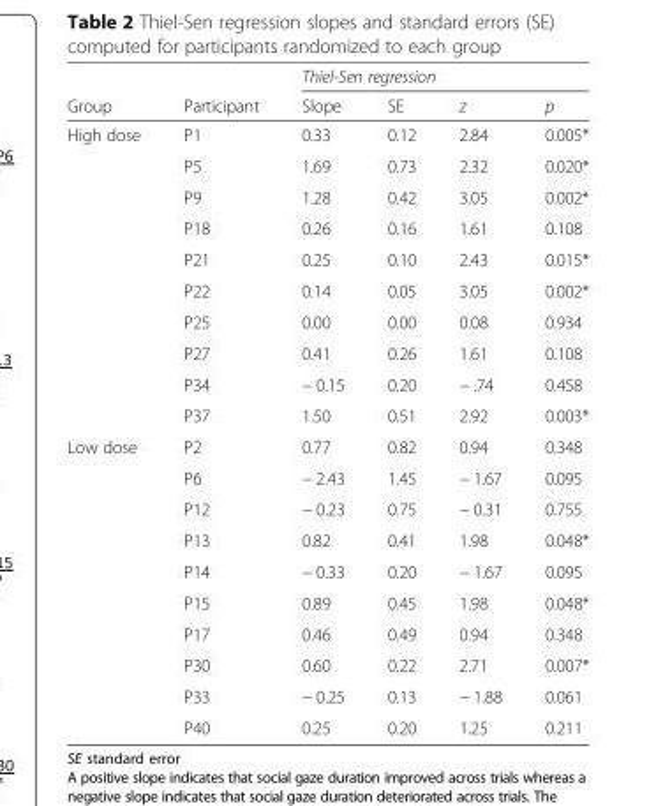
<table><thead><tr><td rowspan="2">Group</td><td rowspan="2">Participant</td><td colspan="4">Thiel-Sen regression</td></tr><tr><td>Slope</td><td>SE</td><td>z</td><td>p</td></tr></thead><tbody><tr><td rowspan="10">High dose</td><td>P1</td><td>0.33</td><td>0.12</td><td>2.84</td><td>0.005*</td></tr><tr><td>P5</td><td>1.69</td><td>0.73</td><td>2.32</td><td>0.020*</td></tr><tr><td>P9</td><td>1.28</td><td>0.42</td><td>3.05</td><td>0.002*</td></tr><tr><td>P18</td><td>0.26</td><td>0.16</td><td>1.61</td><td>0.108</td></tr><tr><td>P21</td><td>0.25</td><td>0.10</td><td>2.43</td><td>0.015*</td></tr><tr><td>P22</td><td>0.14</td><td>0.05</td><td>3.05</td><td>0.002*</td></tr><tr><td>P25</td><td>0.00</td><td>0.00</td><td>0.08</td><td>0.934</td></tr><tr><td>P27</td><td>0.41</td><td>0.26</td><td>1.61</td><td>0.108</td></tr><tr><td>P34</td><td>− 0.15</td><td>0.20</td><td>− .74</td><td>0.458</td></tr><tr><td>P37</td><td>1.50</td><td>0.51</td><td>2.92</td><td>0.003*</td></tr><tr><td rowspan="10">Low dose</td><td>P2</td><td>0.77</td><td>0.82</td><td>0.94</td><td>0.348</td></tr><tr><td>P6</td><td>− 2.43</td><td>1.45</td><td>− 1.67</td><td>0.095</td></tr><tr><td>P12</td><td>− 0.23</td><td>0.75</td><td>− 0.31</td><td>0.755</td></tr><tr><td>P13</td><td>0.82</td><td>0.41</td><td>1.98</td><td>0.048*</td></tr><tr><td>P14</td><td>− 0.33</td><td>0.20</td><td>− 1.67</td><td>0.095</td></tr><tr><td>P15</td><td>0.89</td><td>0.45</td><td>1.98</td><td>0.048*</td></tr><tr><td>P17</td><td>0.46</td><td>0.49</td><td>0.94</td><td>0.348</td></tr><tr><td>P30</td><td>0.60</td><td>0.22</td><td>2.71</td><td>0.007*</td></tr><tr><td>P33</td><td>− 0.25</td><td>0.13</td><td>− 1.88</td><td>0.061</td></tr><tr><td>P40</td><td>0.25</td><td>0.20</td><td>1.25</td><td>0.211</td></tr></tbody></table>